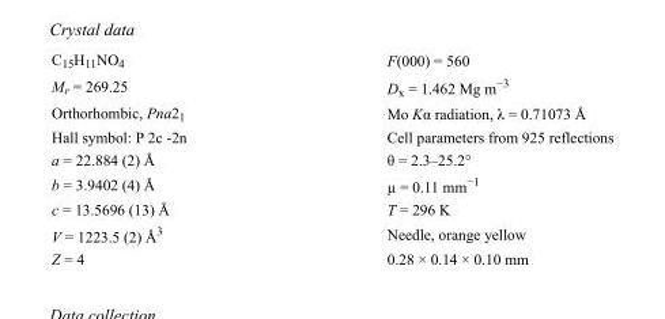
<table><tbody><tr><td>C<sub>15</sub>H<sub>11</sub>NO<sub>4</sub></td><td>F(000) = 560</td></tr><tr><td>M<sub>r</sub> = 269.25</td><td>D<sub>x</sub> = 1.462 Mg m<sup>−3</sup></td></tr><tr><td>Orthorhombic, Pna2<sub>1</sub></td><td>Mo Kα radiation, λ = 0.71073 Å</td></tr><tr><td>Hall symbol: P 2c -2n</td><td>Cell parameters from 925 reflections</td></tr><tr><td>a = 22.884 (2) Å</td><td>θ = 2.3–25.2°</td></tr><tr><td>b = 3.9402 (4) Å</td><td>µ = 0.11 mm<sup>−1</sup></td></tr><tr><td>c = 13.5696 (13) Å</td><td>T = 296 K</td></tr><tr><td>V = 1223.5 (2) Å<sup>3</sup></td><td>Needle, orange yellow</td></tr><tr><td>Z = 4</td><td>0.28 × 0.14 × 0.10 mm</td></tr></tbody></table>